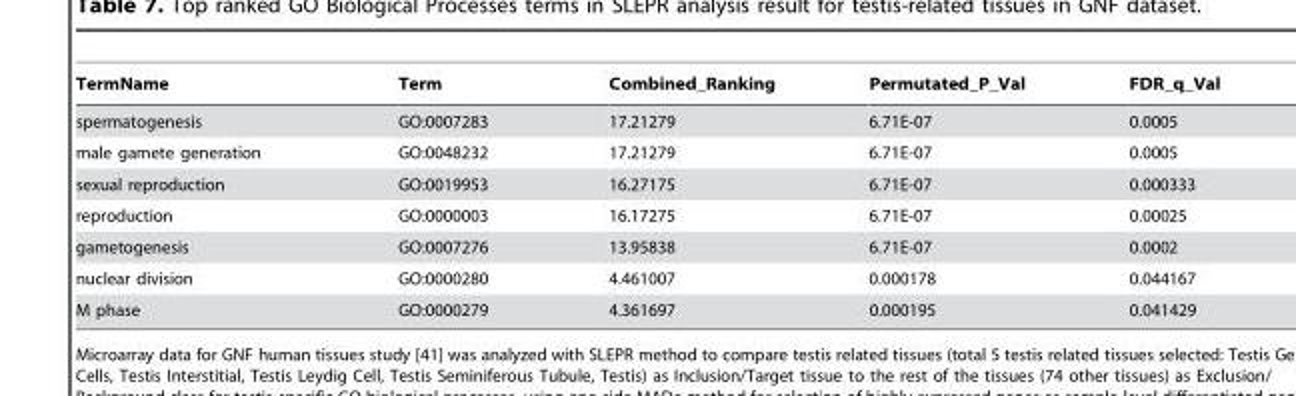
<table><thead><tr><td>TermName</td><td>Term</td><td>Combined_Ranking</td><td>Permutated_P_Val</td><td>FDR_q_Val</td></tr></thead><tbody><tr><td>spermatogenesis</td><td>GO:0007283</td><td>17.21279</td><td>6.71E-07</td><td>0.0005</td></tr><tr><td>male gamete generation</td><td>GO:0048232</td><td>17.21279</td><td>6.71E-07</td><td>0.0005</td></tr><tr><td>sexual reproduction</td><td>GO:0019953</td><td>16.27175</td><td>6.71E-07</td><td>0.000333</td></tr><tr><td>reproduction</td><td>GO:0000003</td><td>16.17275</td><td>6.71E-07</td><td>0.00025</td></tr><tr><td>gametogenesis</td><td>GO:0007276</td><td>13.95838</td><td>6.71E-07</td><td>0.0002</td></tr><tr><td>nuclear division</td><td>GO:0000280</td><td>4.461007</td><td>0.000178</td><td>0.044167</td></tr><tr><td>M phase</td><td>GO:0000279</td><td>4.361697</td><td>0.000195</td><td>0.041429</td></tr></tbody></table>